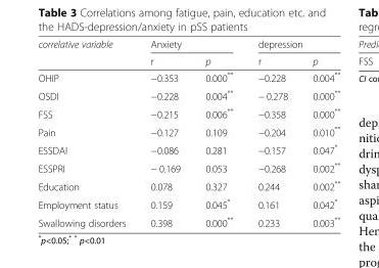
<table><thead><tr><td rowspan="2">correlative variable</td><td colspan="2">Anxiety</td><td colspan="2">depression</td></tr><tr><td>r</td><td>p</td><td>r</td><td>p</td></tr></thead><tbody><tr><td>OHIP</td><td>−0.353</td><td>0.000**</td><td>−0.228</td><td>0.004**</td></tr><tr><td>OSDI</td><td>−0.228</td><td>0.004**</td><td>− 0.278</td><td>0.000**</td></tr><tr><td>FSS</td><td>−0.215</td><td>0.006**</td><td>−0.358</td><td>0.000**</td></tr><tr><td>Pain</td><td>−0.127</td><td>0.109</td><td>−0.204</td><td>0.010**</td></tr><tr><td>ESSDAI</td><td>−0.086</td><td>0.281</td><td>−0.157</td><td>0.047*</td></tr><tr><td>ESSPRI</td><td>− 0.169</td><td>0.053</td><td>−0.268</td><td>0.002**</td></tr><tr><td>Education</td><td>0.078</td><td>0.327</td><td>0.244</td><td>0.002**</td></tr><tr><td>Employment status</td><td>0.159</td><td>0.045*</td><td>0.161</td><td>0.042*</td></tr><tr><td>Swallowing disorders</td><td>0.398</td><td>0.000**</td><td>0.233</td><td>0.003**</td></tr></tbody></table>